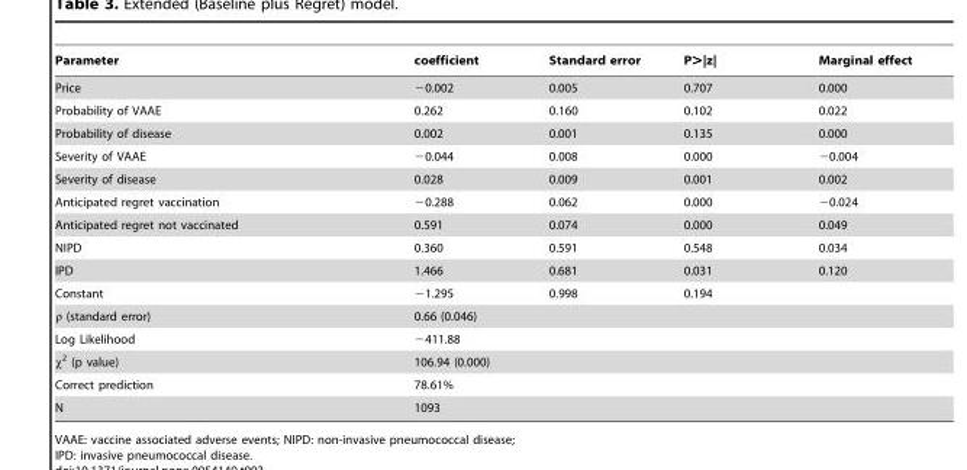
<table><thead><tr><td>Parameter</td><td>coefficient</td><td>Standard error</td><td>P&gt;|z|</td><td>Marginal effect</td></tr></thead><tbody><tr><td>Price</td><td>−0.002</td><td>0.005</td><td>0.707</td><td>0.000</td></tr><tr><td>Probability of VAAE</td><td>0.262</td><td>0.160</td><td>0.102</td><td>0.022</td></tr><tr><td>Probability of disease</td><td>0.002</td><td>0.001</td><td>0.135</td><td>0.000</td></tr><tr><td>Severity of VAAE</td><td>−0.044</td><td>0.008</td><td>0.000</td><td>−0.004</td></tr><tr><td>Severity of disease</td><td>0.028</td><td>0.009</td><td>0.001</td><td>0.002</td></tr><tr><td>Anticipated regret vaccination</td><td>−0.288</td><td>0.062</td><td>0.000</td><td>−0.024</td></tr><tr><td>Anticipated regret not vaccinated</td><td>0.591</td><td>0.074</td><td>0.000</td><td>0.049</td></tr><tr><td>NIPD</td><td>0.360</td><td>0.591</td><td>0.548</td><td>0.034</td></tr><tr><td>IPD</td><td>1.466</td><td>0.681</td><td>0.031</td><td>0.120</td></tr><tr><td>Constant</td><td>−1.295</td><td>0.998</td><td>0.194</td><td></td></tr><tr><td>ρ (standard error)</td><td colspan="4">0.66 (0.046)</td></tr><tr><td>Log Likelihood</td><td colspan="4">−411.88</td></tr><tr><td>x2 (p value)</td><td colspan="4">106.94 (0.000)</td></tr><tr><td>Correct prediction</td><td colspan="4">78.61%</td></tr><tr><td>N</td><td colspan="4">1093</td></tr></tbody></table>